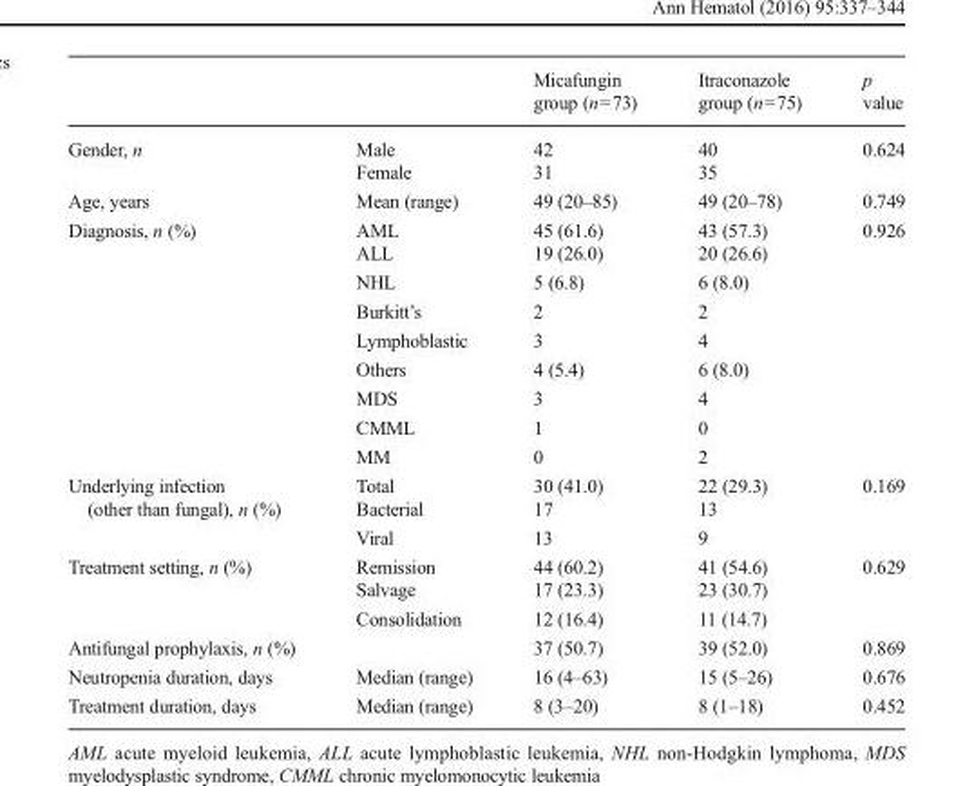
<table><thead><tr><td></td><td></td><td>Micafungin group (n=73)</td><td>Itraconazole group (n=75)</td><td>p value</td></tr></thead><tbody><tr><td rowspan="2">Gender, n</td><td>Male</td><td>42</td><td>40</td><td rowspan="2">0.624</td></tr><tr><td>Female</td><td>31</td><td>35</td></tr><tr><td>Age, years</td><td>Mean (range)</td><td>49 (20–85)</td><td>49 (20–78)</td><td>0.749</td></tr><tr><td rowspan="9">Diagnosis, n (%)</td><td>AML</td><td>45 (61.6)</td><td>43 (57.3)</td><td rowspan="9">0.926</td></tr><tr><td>ALL</td><td>19 (26.0)</td><td>20 (26.6)</td></tr><tr><td>NHL</td><td>5 (6.8)</td><td>6 (8.0)</td></tr><tr><td>Burkitt’s</td><td>2</td><td>2</td></tr><tr><td>Lymphoblastic</td><td>3</td><td>4</td></tr><tr><td>Others</td><td>4 (5.4)</td><td>6 (8.0)</td></tr><tr><td>MDS</td><td>3</td><td>4</td></tr><tr><td>CMML</td><td>1</td><td>0</td></tr><tr><td>MM</td><td>0</td><td>2</td></tr><tr><td rowspan="3">Underlying infection (other than fungal), n (%)</td><td>Total</td><td>30 (41.0)</td><td>22 (29.3)</td><td rowspan="3">0.169</td></tr><tr><td>Bacterial</td><td>17</td><td>13</td></tr><tr><td>Viral</td><td>13</td><td>9</td></tr><tr><td rowspan="3">Treatment setting, n (%)</td><td>Remission</td><td>44 (60.2)</td><td>41 (54.6)</td><td rowspan="3">0.629</td></tr><tr><td>Salvage</td><td>17 (23.3)</td><td>23 (30.7)</td></tr><tr><td>Consolidation</td><td>12 (16.4)</td><td>11 (14.7)</td></tr><tr><td>Antifungal prophylaxis, n (%)</td><td></td><td>37 (50.7)</td><td>39 (52.0)</td><td>0.869</td></tr><tr><td>Neutropenia duration, days</td><td>Median (range)</td><td>16 (4–63)</td><td>15 (5–26)</td><td>0.676</td></tr><tr><td>Treatment duration, days</td><td>Median (range)</td><td>8 (3–20)</td><td>8 (1–18)</td><td>0.452</td></tr></tbody></table>